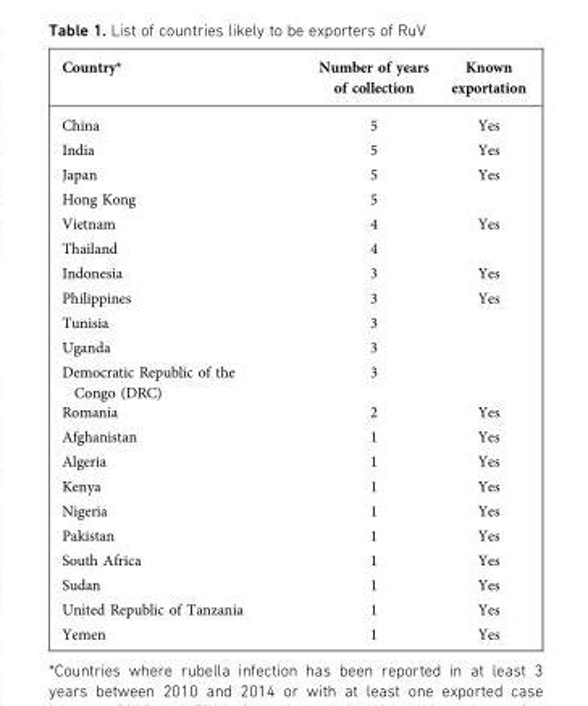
<table><thead><tr><td>Country*</td><td>Number of years of collection</td><td>Known exportation</td></tr></thead><tbody><tr><td>China</td><td>5</td><td>Yes</td></tr><tr><td>India</td><td>5</td><td>Yes</td></tr><tr><td>Japan</td><td>5</td><td>Yes</td></tr><tr><td>Hong Kong</td><td>5</td><td></td></tr><tr><td>Vietnam</td><td>4</td><td>Yes</td></tr><tr><td>Thailand</td><td>4</td><td></td></tr><tr><td>Indonesia</td><td>3</td><td>Yes</td></tr><tr><td>Philippines</td><td>3</td><td>Yes</td></tr><tr><td>Tunisia</td><td>3</td><td></td></tr><tr><td>Uganda</td><td>3</td><td></td></tr><tr><td>Democratic Republic of the Congo (DRC)</td><td>3</td><td></td></tr><tr><td>Romania</td><td>2</td><td>Yes</td></tr><tr><td>Afghanistan</td><td>1</td><td>Yes</td></tr><tr><td>Algeria</td><td>1</td><td>Yes</td></tr><tr><td>Kenya</td><td>1</td><td>Yes</td></tr><tr><td>Nigeria</td><td>1</td><td>Yes</td></tr><tr><td>Pakistan</td><td>1</td><td>Yes</td></tr><tr><td>South Africa</td><td>1</td><td>Yes</td></tr><tr><td>Sudan</td><td>1</td><td>Yes</td></tr><tr><td>United Republic of Tanzania</td><td>1</td><td>Yes</td></tr><tr><td>Yemen</td><td>1</td><td>Yes</td></tr></tbody></table>